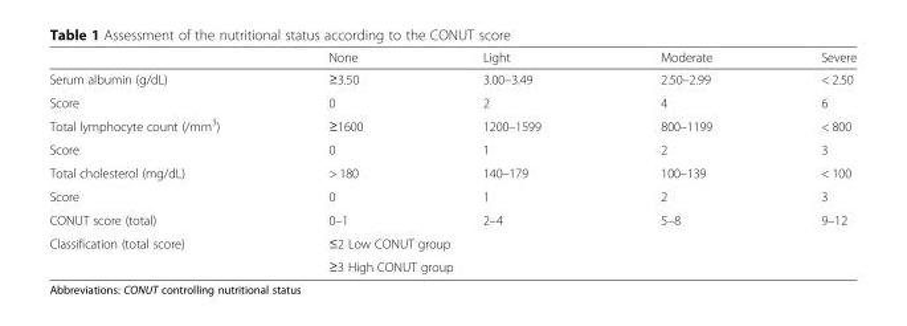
<table><thead><tr><td></td><td>None</td><td>Light</td><td>Moderate</td><td>Severe</td></tr></thead><tbody><tr><td>Serum albumin (g/dL)</td><td>≥3.50</td><td>3.00–3.49</td><td>2.50–2.99</td><td>&lt; 2.50</td></tr><tr><td>Score</td><td>0</td><td>2</td><td>4</td><td>6</td></tr><tr><td>Total lymphocyte count (/mm<sup>3</sup>)</td><td>≥1600</td><td>1200–1599</td><td>800–1199</td><td>&lt; 800</td></tr><tr><td>Score</td><td>0</td><td>1</td><td>2</td><td>3</td></tr><tr><td>Total cholesterol (mg/dL)</td><td>&gt; 180</td><td>140–179</td><td>100–139</td><td>&lt; 100</td></tr><tr><td>Score</td><td>0</td><td>1</td><td>2</td><td>3</td></tr><tr><td>CONUT score (total)</td><td>0–1</td><td>2–4</td><td>5–8</td><td>9–12</td></tr><tr><td rowspan="2">Classification (total score)</td><td colspan="2">≤2 Low CONUT group</td><td></td><td></td></tr><tr><td colspan="2">≥3 High CONUT group</td><td></td><td></td></tr></tbody></table>